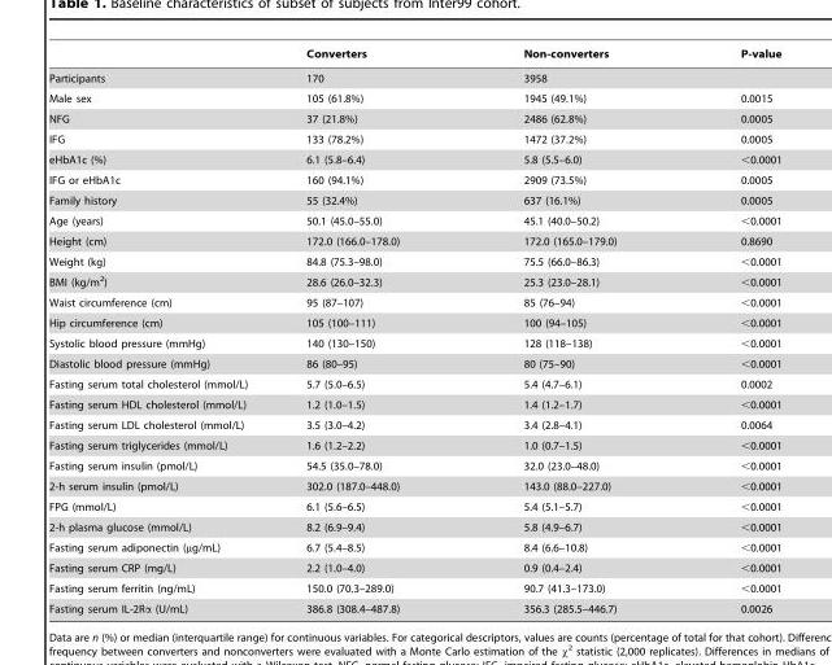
<table><thead><tr><td></td><td>Converters</td><td>Non-converters</td><td>P-value</td></tr></thead><tbody><tr><td>Participants</td><td>170</td><td>3958</td><td></td></tr><tr><td>Male sex</td><td>105 (61.8%)</td><td>1945 (49.1%)</td><td>0.0015</td></tr><tr><td>NFG</td><td>37 (21.8%)</td><td>2486 (62.8%)</td><td>0.0005</td></tr><tr><td>IFG</td><td>133 (78.2%)</td><td>1472 (37.2%)</td><td>0.0005</td></tr><tr><td>eHbA1c (%)</td><td>6.1 (5.8–6.4)</td><td>5.8 (5.5–6.0)</td><td>&lt;0.0001</td></tr><tr><td>IFG or eHbA1c</td><td>160 (94.1%)</td><td>2909 (73.5%)</td><td>0.0005</td></tr><tr><td>Family history</td><td>55 (32.4%)</td><td>637 (16.1%)</td><td>0.0005</td></tr><tr><td>Age (years)</td><td>50.1 (45.0–55.0)</td><td>45.1 (40.0–50.2)</td><td>&lt;0.0001</td></tr><tr><td>Height (cm)</td><td>172.0 (166.0–178.0)</td><td>172.0 (165.0–179.0)</td><td>0.8690</td></tr><tr><td>Weight (kg)</td><td>84.8 (75.3–98.0)</td><td>75.5 (66.0–86.3)</td><td>&lt;0.0001</td></tr><tr><td>BMI (kg/m<sup>2</sup>)</td><td>28.6 (26.0–32.3)</td><td>25.3 (23.0–28.1)</td><td>&lt;0.0001</td></tr><tr><td>Waist circumference (cm)</td><td>95 (87–107)</td><td>85 (76–94)</td><td>&lt;0.0001</td></tr><tr><td>Hip circumference (cm)</td><td>105 (100–111)</td><td>100 (94–105)</td><td>&lt;0.0001</td></tr><tr><td>Systolic blood pressure (mmHg)</td><td>140 (130–150)</td><td>128 (118–138)</td><td>&lt;0.0001</td></tr><tr><td>Diastolic blood pressure (mmHg)</td><td>86 (80–95)</td><td>80 (75–90)</td><td>&lt;0.0001</td></tr><tr><td>Fasting serum total cholesterol (mmol/L)</td><td>5.7 (5.0–6.5)</td><td>5.4 (4.7–6.1)</td><td>0.0002</td></tr><tr><td>Fasting serum HDL cholesterol (mmol/L)</td><td>1.2 (1.0–1.5)</td><td>1.4 (1.2–1.7)</td><td>&lt;0.0001</td></tr><tr><td>Fasting serum LDL cholesterol (mmol/L)</td><td>3.5 (3.0–4.2)</td><td>3.4 (2.8–4.1)</td><td>0.0064</td></tr><tr><td>Fasting serum triglycerides (mmol/L)</td><td>1.6 (1.2–2.2)</td><td>1.0 (0.7–1.5)</td><td>&lt;0.0001</td></tr><tr><td>Fasting serum insulin (pmol/L)</td><td>54.5 (35.0–78.0)</td><td>32.0 (23.0–48.0)</td><td>&lt;0.0001</td></tr><tr><td>2-h serum insulin (pmol/L)</td><td>302.0 (187.0–448.0)</td><td>143.0 (88.0–227.0)</td><td>&lt;0.0001</td></tr><tr><td>FPG (mmol/L)</td><td>6.1 (5.6–6.5)</td><td>5.4 (5.1–5.7)</td><td>&lt;0.0001</td></tr><tr><td>2-h plasma glucose (mmol/L)</td><td>8.2 (6.9–9.4)</td><td>5.8 (4.9–6.7)</td><td>&lt;0.0001</td></tr><tr><td>Fasting serum adiponectin (µg/mL)</td><td>6.7 (5.4–8.5)</td><td>8.4 (6.6–10.8)</td><td>&lt;0.0001</td></tr><tr><td>Fasting serum CRP (mg/L)</td><td>2.2 (1.0–4.0)</td><td>0.9 (0.4–2.4)</td><td>&lt;0.0001</td></tr><tr><td>Fasting serum ferritin (ng/mL)</td><td>150.0 (70.3–289.0)</td><td>90.7 (41.3–173.0)</td><td>&lt;0.0001</td></tr><tr><td>Fasting serum IL-2Rα (U/mL)</td><td>386.8 (308.4–487.8)</td><td>356.3 (285.5–446.7)</td><td>0.0026</td></tr></tbody></table>